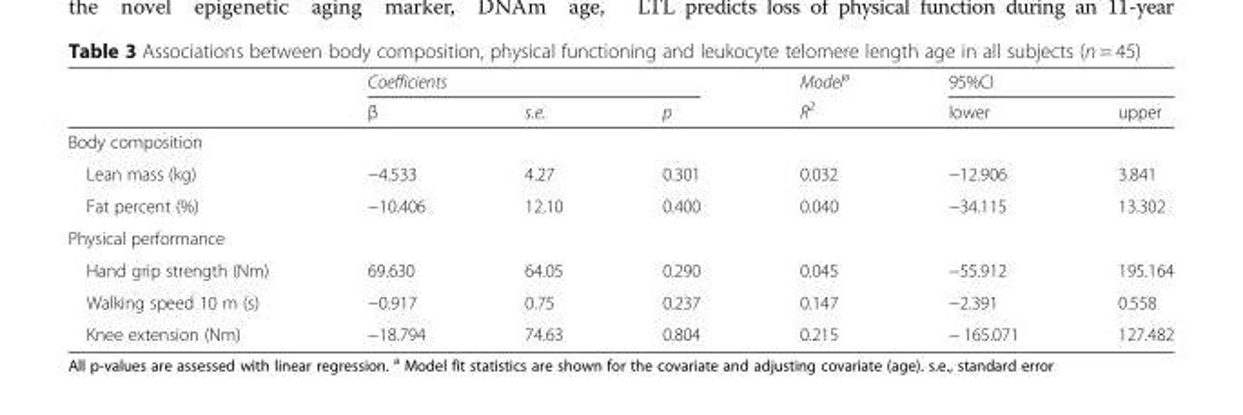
<table><thead><tr><td rowspan="2"></td><td colspan="3">Coefficients</td><td rowspan="2">Model<sup>a</sup> R<sup>2</sup></td><td colspan="2">95%CI</td></tr><tr><td>β</td><td>s.e.</td><td>p</td><td>lower</td><td>upper</td></tr></thead><tbody><tr><td colspan="7">Body composition</td></tr><tr><td>Lean mass (kg)</td><td>−4.533</td><td>4.27</td><td>0.301</td><td>0.032</td><td>−12.906</td><td>3.841</td></tr><tr><td>Fat percent (%)</td><td>−10.406</td><td>12.10</td><td>0.400</td><td>0.040</td><td>−34.115</td><td>13.302</td></tr><tr><td colspan="7">Physical performance</td></tr><tr><td>Hand grip strength (Nm)</td><td>69.630</td><td>64.05</td><td>0.290</td><td>0.045</td><td>−55.912</td><td>195.164</td></tr><tr><td>Walking speed 10 m (s)</td><td>−0.917</td><td>0.75</td><td>0.237</td><td>0.147</td><td>−2.391</td><td>0.558</td></tr><tr><td>Knee extension (Nm)</td><td>−18.794</td><td>74.63</td><td>0.804</td><td>0.215</td><td>− 165.071</td><td>127.482</td></tr></tbody></table>